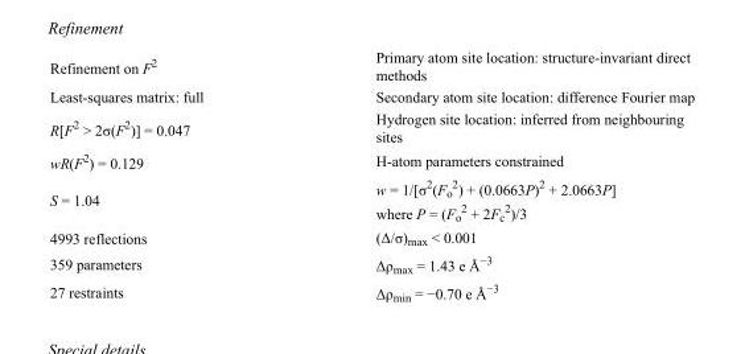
<table><tbody><tr><td>Refinement on F<sup>2</sup></td><td>Primary atom site location: structure-invariant direct methods</td></tr><tr><td>Least-squares matrix: full</td><td>Secondary atom site location: difference Fourier map</td></tr><tr><td>R[F<sup>2</sup> &gt; 2σ(F<sup>2</sup>)] = 0.047</td><td>Hydrogen site location: inferred from neighbouring sites</td></tr><tr><td>wR(F<sup>2</sup>) = 0.129</td><td>H-atom parameters constrained</td></tr><tr><td>S = 1.04</td><td>w = 1/[σ<sup>2</sup>(F<sub>o</sub> <sup>2</sup>) + (0.0663P)<sup>2</sup> + 2.0663P] where P = (F<sub>o</sub> <sup>2</sup> + 2F<sub>c</sub> <sup>2</sup>)/3</td></tr><tr><td>4993 reflections</td><td>(Δ/σ)<sub>max</sub> &lt; 0.001</td></tr><tr><td>359 parameters</td><td>Δρ<sub>max</sub> = 1.43 e Å<sup>−3</sup></td></tr><tr><td>27 restraints</td><td>Δρ<sub>min</sub> = −0.70 e Å<sup>−3</sup></td></tr></tbody></table>